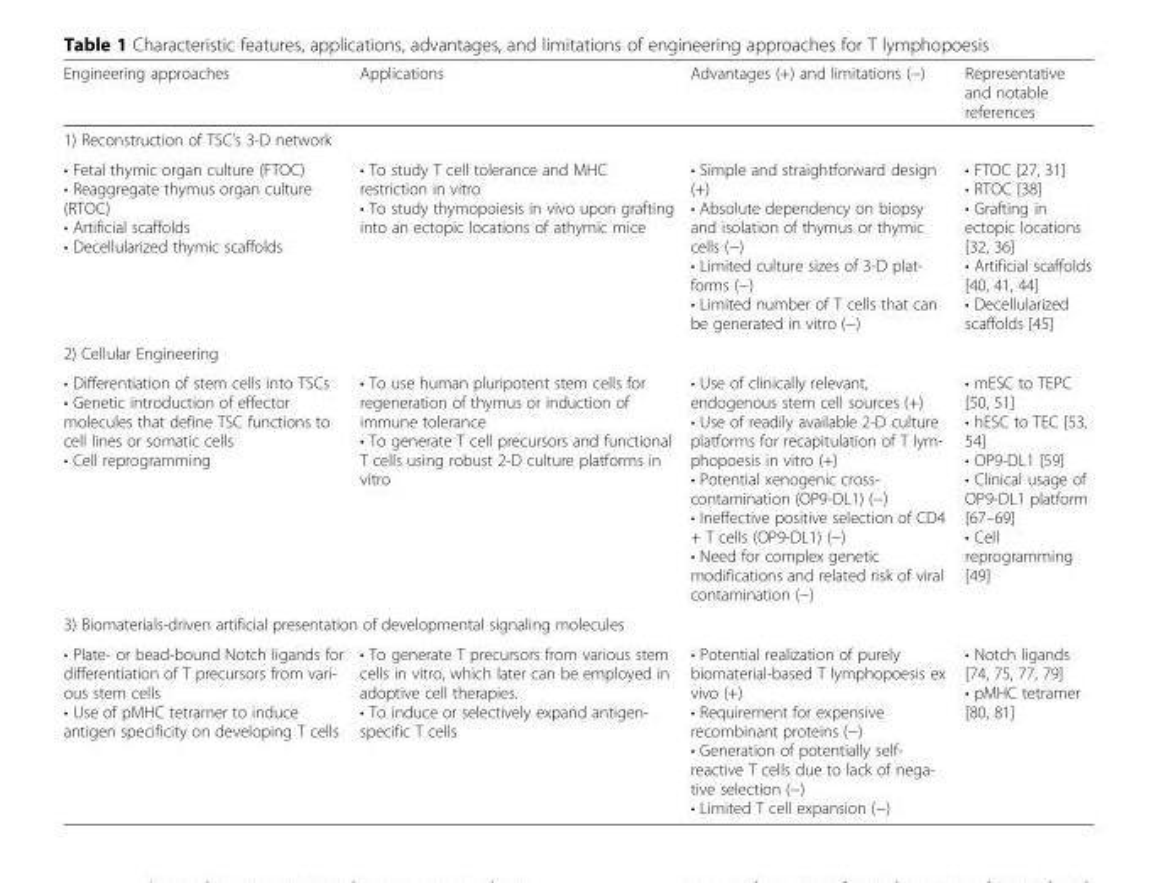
<table><thead><tr><td>Engineering approaches</td><td>Applications</td><td>Advantages (+) and limitations (−)</td><td>Representative and notable references</td></tr></thead><tbody><tr><td colspan="4">1) Reconstruction of TSC’s 3-D network</td></tr><tr><td>• Fetal thymic organ culture (FTOC) • Reaggregate thymus organ culture (RTOC) • Artificial scaffolds • Decellularized thymic scaffolds</td><td>• To study T cell tolerance and MHC restriction in vitro • To study thymopoiesis in vivo upon grafting into an ectopic locations of athymic mice</td><td>• Simple and straightforward design (+) • Absolute dependency on biopsy and isolation of thymus or thymic cells (−) • Limited culture sizes of 3-D plat- forms (−) • Limited number of T cells that can be generated in vitro (−)</td><td>• FTOC [27, 31] • RTOC [38] • Grafting in ectopic locations [32, 36] • Artificial scaffolds [40, 41, 44] • Decellularized scaffolds [45]</td></tr><tr><td colspan="4">2) Cellular Engineering</td></tr><tr><td>• Differentiation of stem cells into TSCs • Genetic introduction of effector molecules that define TSC functions to cell lines or somatic cells • Cell reprogramming</td><td>• To use human pluripotent stem cells for regeneration of thymus or induction of immune tolerance • To generate T cell precursors and functional T cells using robust 2-D culture platforms in vitro</td><td>• Use of clinically relevant, endogenous stem cell sources (+) • Use of readily available 2-D culture platforms for recapitulation of T lym- phopoesis in vitro (+) • Potential xenogenic cross- contamination (OP9-DL1) (−) • Ineffective positive selection of CD4 + T cells (OP9-DL1) (−) • Need for complex genetic modifications and related risk of viral contamination (−)</td><td>• mESC to TEPC [50, 51] • hESC to TEC [53, 54] • OP9-DL1 [59] • Clinical usage of OP9-DL1 platform [67–69] • Cell reprogramming [49]</td></tr><tr><td colspan="4">3) Biomaterials-driven artificial presentation of developmental signaling molecules</td></tr><tr><td>• Plate- or bead-bound Notch ligands for differentiation of T precursors from vari- ous stem cells • Use of pMHC tetramer to induce antigen specificity on developing T cells</td><td>• To generate T precursors from various stem cells in vitro, which later can be employed in adoptive cell therapies. • To induce or selectively expand antigen- specific T cells</td><td>• Potential realization of purely biomaterial-based T lymphopoesis ex vivo (+) • Requirement for expensive recombinant proteins (−) • Generation of potentially self- reactive T cells due to lack of nega- tive selection (−) • Limited T cell expansion (−)</td><td>• Notch ligands [74, 75, 77, 79] • pMHC tetramer [80, 81]</td></tr></tbody></table>